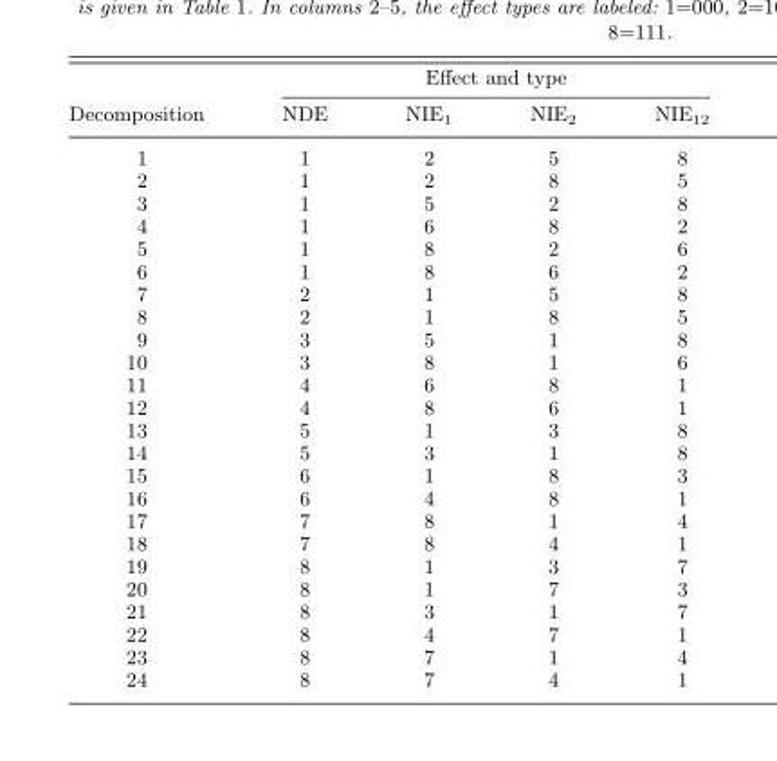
<table><thead><tr><td rowspan="2">Decomposition</td><td colspan="4">Effect and type</td></tr><tr><td>NDE</td><td>NIE<sub>1</sub></td><td>NIE<sub>2</sub></td><td>NIE<sub>12</sub></td></tr></thead><tbody><tr><td>1</td><td>1</td><td>2</td><td>5</td><td>8</td></tr><tr><td>2</td><td>1</td><td>2</td><td>8</td><td>5</td></tr><tr><td>3</td><td>1</td><td>5</td><td>2</td><td>8</td></tr><tr><td>4</td><td>1</td><td>6</td><td>8</td><td>2</td></tr><tr><td>5</td><td>1</td><td>8</td><td>2</td><td>6</td></tr><tr><td>6</td><td>1</td><td>8</td><td>6</td><td>2</td></tr><tr><td>7</td><td>2</td><td>1</td><td>5</td><td>8</td></tr><tr><td>8</td><td>2</td><td>1</td><td>8</td><td>5</td></tr><tr><td>9</td><td>3</td><td>5</td><td>1</td><td>8</td></tr><tr><td>10</td><td>3</td><td>8</td><td>1</td><td>6</td></tr><tr><td>11</td><td>4</td><td>6</td><td>8</td><td>1</td></tr><tr><td>12</td><td>4</td><td>8</td><td>6</td><td>1</td></tr><tr><td>13</td><td>5</td><td>1</td><td>3</td><td>8</td></tr><tr><td>14</td><td>5</td><td>3</td><td>1</td><td>8</td></tr><tr><td>15</td><td>6</td><td>1</td><td>8</td><td>3</td></tr><tr><td>16</td><td>6</td><td>4</td><td>8</td><td>1</td></tr><tr><td>17</td><td>7</td><td>8</td><td>1</td><td>4</td></tr><tr><td>18</td><td>7</td><td>8</td><td>4</td><td>1</td></tr><tr><td>19</td><td>8</td><td>1</td><td>3</td><td>7</td></tr><tr><td>20</td><td>8</td><td>1</td><td>7</td><td>3</td></tr><tr><td>21</td><td>8</td><td>3</td><td>1</td><td>7</td></tr><tr><td>22</td><td>8</td><td>4</td><td>7</td><td>1</td></tr><tr><td>23</td><td>8</td><td>7</td><td>1</td><td>4</td></tr><tr><td>24</td><td>8</td><td>7</td><td>4</td><td>1</td></tr></tbody></table>